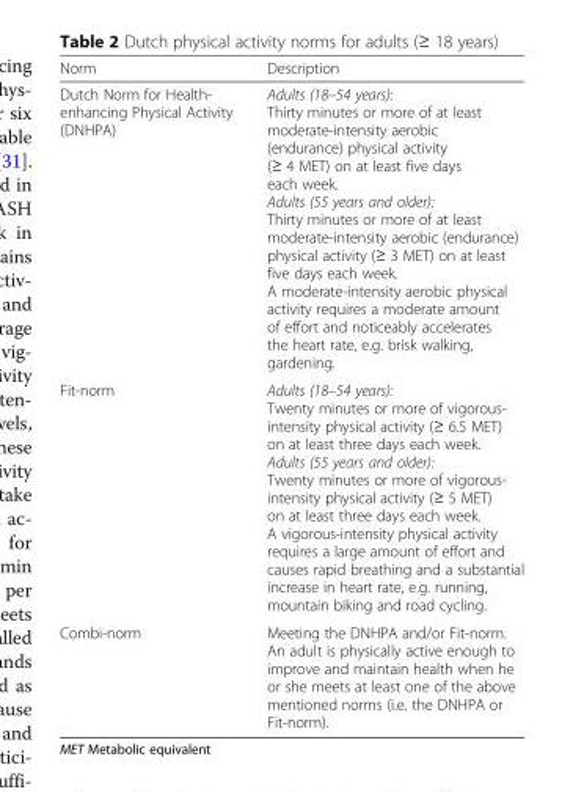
<table><thead><tr><td>Norm</td><td>Description</td></tr></thead><tbody><tr><td>Dutch Norm for Health- enhancing Physical Activity (DNHPA)</td><td>Adults (18–54 years): Thirty minutes or more of at least moderate-intensity aerobic (endurance) physical activity (≥ 4 MET) on at least five days each week. Adults (55 years and older): Thirty minutes or more of at least moderate-intensity aerobic (endurance) physical activity (≥ 3 MET) on at least five days each week. A moderate-intensity aerobic physical activity requires a moderate amount of effort and noticeably accelerates the heart rate, e.g. brisk walking, gardening.</td></tr><tr><td>Fit-norm</td><td>Adults (18–54 years): Twenty minutes or more of vigorous- intensity physical activity (≥ 6.5 MET) on at least three days each week. Adults (55 years and older): Twenty minutes or more of vigorous- intensity physical activity (≥ 5 MET) on at least three days each week. A vigorous-intensity physical activity requires a large amount of effort and causes rapid breathing and a substantial increase in heart rate, e.g. running, mountain biking and road cycling.</td></tr><tr><td>Combi-norm</td><td>Meeting the DNHPA and/or Fit-norm. An adult is physically active enough to improve and maintain health when he or she meets at least one of the above mentioned norms (i.e. the DNHPA or Fit-norm).</td></tr></tbody></table>